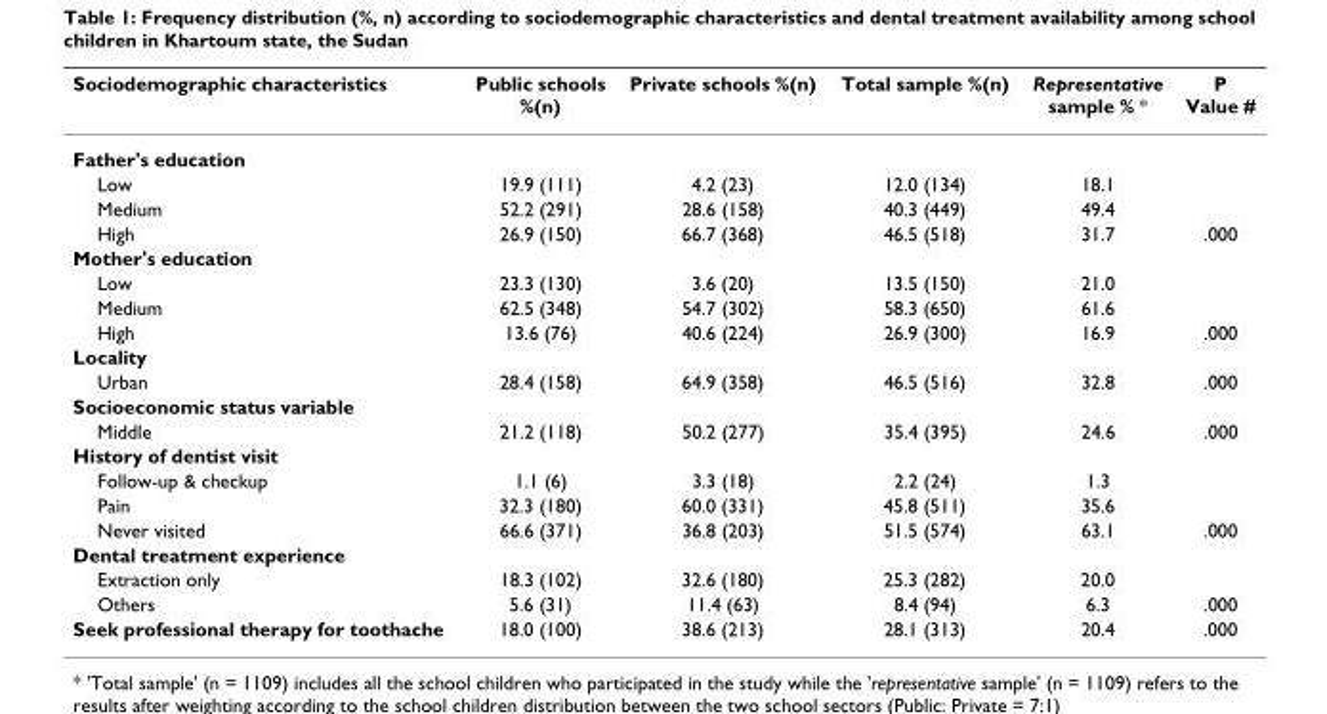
<table><thead><tr><td>Sociodemographic characteristics</td><td>Public schools %(n)</td><td>Private schools %(n)</td><td>Total sample %(n)</td><td>Representative sample % *</td><td>P Value #</td></tr></thead><tbody><tr><td colspan="6">Father&#x27;s education</td></tr><tr><td>Low</td><td>19.9 (111)</td><td>4.2 (23)</td><td>12.0 (134)</td><td>18.1</td><td></td></tr><tr><td>Medium</td><td>52.2 (291)</td><td>28.6 (158)</td><td>40.3 (449)</td><td>49.4</td><td></td></tr><tr><td>High</td><td>26.9 (150)</td><td>66.7 (368)</td><td>46.5 (518)</td><td>31.7</td><td>.000</td></tr><tr><td colspan="6">Mother&#x27;s education</td></tr><tr><td>Low</td><td>23.3 (130)</td><td>3.6 (20)</td><td>13.5 (150)</td><td>21.0</td><td></td></tr><tr><td>Medium</td><td>62.5 (348)</td><td>54.7 (302)</td><td>58.3 (650)</td><td>61.6</td><td></td></tr><tr><td>High</td><td>13.6 (76)</td><td>40.6 (224)</td><td>26.9 (300)</td><td>16.9</td><td>.000</td></tr><tr><td colspan="6">Locality</td></tr><tr><td>Urban</td><td>28.4 (158)</td><td>64.9 (358)</td><td>46.5 (516)</td><td>32.8</td><td>.000</td></tr><tr><td colspan="6">Socioeconomic status variable</td></tr><tr><td>Middle</td><td>21.2 (118)</td><td>50.2 (277)</td><td>35.4 (395)</td><td>24.6</td><td>.000</td></tr><tr><td colspan="6">History of dentist visit</td></tr><tr><td>Follow-up &amp; checkup</td><td>1.1 (6)</td><td>3.3 (18)</td><td>2.2 (24)</td><td>1.3</td><td></td></tr><tr><td>Pain</td><td>32.3 (180)</td><td>60.0 (331)</td><td>45.8 (511)</td><td>35.6</td><td></td></tr><tr><td>Never visited</td><td>66.6 (371)</td><td>36.8 (203)</td><td>51.5 (574)</td><td>63.1</td><td>.000</td></tr><tr><td colspan="6">Dental treatment experience</td></tr><tr><td>Extraction only</td><td>18.3 (102)</td><td>32.6 (180)</td><td>25.3 (282)</td><td>20.0</td><td></td></tr><tr><td>Others</td><td>5.6 (31)</td><td>11.4 (63)</td><td>8.4 (94)</td><td>6.3</td><td>.000</td></tr><tr><td>Seek professional therapy for toothache</td><td>18.0 (100)</td><td>38.6 (213)</td><td>28.1 (313)</td><td>20.4</td><td>.000</td></tr></tbody></table>